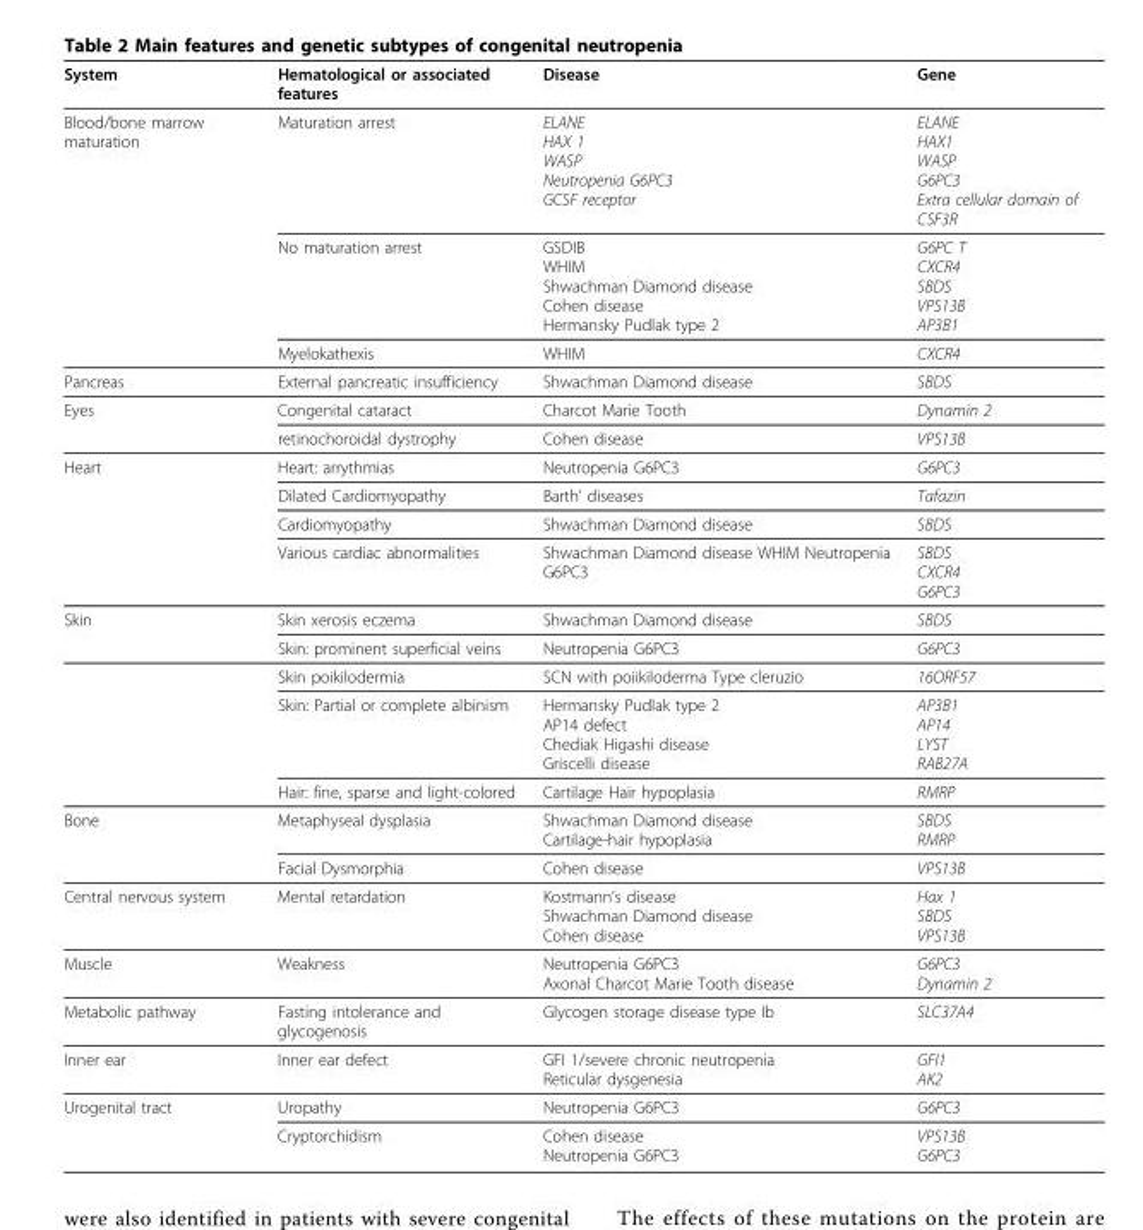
<table><thead><tr><td>System</td><td>Hematological or associated features</td><td>Disease</td><td>Gene</td></tr></thead><tbody><tr><td rowspan="3">Blood/bone marrow maturation</td><td>Maturation arrest</td><td>ELANE HAX 1 WASP Neutropenia G6PC3 GCSF receptor</td><td>ELANE HAX1 WASP G6PC3 Extra cellular domain of CSF3R</td></tr><tr><td>No maturation arrest</td><td>GSDIB WHIM Shwachman Diamond disease Cohen disease Hermansky Pudlak type 2</td><td>G6PC T CXCR4 SBDS VPS13B AP3B1</td></tr><tr><td>Myelokathexis</td><td>WHIM</td><td>CXCR4</td></tr><tr><td>Pancreas</td><td>External pancreatic insufficiency</td><td>Shwachman Diamond disease</td><td>SBDS</td></tr><tr><td rowspan="2">Eyes</td><td>Congenital cataract</td><td>Charcot Marie Tooth</td><td>Dynamin 2</td></tr><tr><td>retinochoroidal dystrophy</td><td>Cohen disease</td><td>VPS13B</td></tr><tr><td rowspan="4">Heart</td><td>Heart: arrythmias</td><td>Neutropenia G6PC3</td><td>G6PC3</td></tr><tr><td>Dilated Cardiomyopathy</td><td>Barth’ diseases</td><td>Tafazin</td></tr><tr><td>Cardiomyopathy</td><td>Shwachman Diamond disease</td><td>SBDS</td></tr><tr><td>Various cardiac abnormalities</td><td>Shwachman Diamond disease WHIM Neutropenia G6PC3</td><td>SBDS CXCR4 G6PC3</td></tr><tr><td rowspan="5">Skin</td><td>Skin xerosis eczema</td><td>Shwachman Diamond disease</td><td>SBDS</td></tr><tr><td>Skin: prominent superficial veins</td><td>Neutropenia G6PC3</td><td>G6PC3</td></tr><tr><td>Skin poikilodermia</td><td>SCN with poiikiloderma Type cleruzio</td><td>16ORF57</td></tr><tr><td>Skin: Partial or complete albinism</td><td>Hermansky Pudlak type 2 AP14 defect Chediak Higashi disease Griscelli disease</td><td>AP3B1 AP14 LYST RAB27A</td></tr><tr><td>Hair: fine, sparse and light-colored</td><td>Cartilage Hair hypoplasia</td><td>RMRP</td></tr><tr><td rowspan="2">Bone</td><td>Metaphyseal dysplasia</td><td>Shwachman Diamond disease Cartilage-hair hypoplasia</td><td>SBDS RMRP</td></tr><tr><td>Facial Dysmorphia</td><td>Cohen disease</td><td>VPS13B</td></tr><tr><td>Central nervous system</td><td>Mental retardation</td><td>Kostmann’s disease Shwachman Diamond disease Cohen disease</td><td>Hax 1 SBDS VPS13B</td></tr><tr><td>Muscle</td><td>Weakness</td><td>Neutropenia G6PC3 Axonal Charcot Marie Tooth disease</td><td>G6PC3 Dynamin 2</td></tr><tr><td>Metabolic pathway</td><td>Fasting intolerance and glycogenosis</td><td>Glycogen storage disease type Ib</td><td>SLC37A4</td></tr><tr><td>Inner ear</td><td>Inner ear defect</td><td>GFI 1/severe chronic neutropenia Reticular dysgenesia</td><td>GFI1 AK2</td></tr><tr><td rowspan="2">Urogenital tract</td><td>Uropathy</td><td>Neutropenia G6PC3</td><td>G6PC3</td></tr><tr><td>Cryptorchidism</td><td>Cohen disease Neutropenia G6PC3</td><td>VPS13B G6PC3</td></tr></tbody></table>